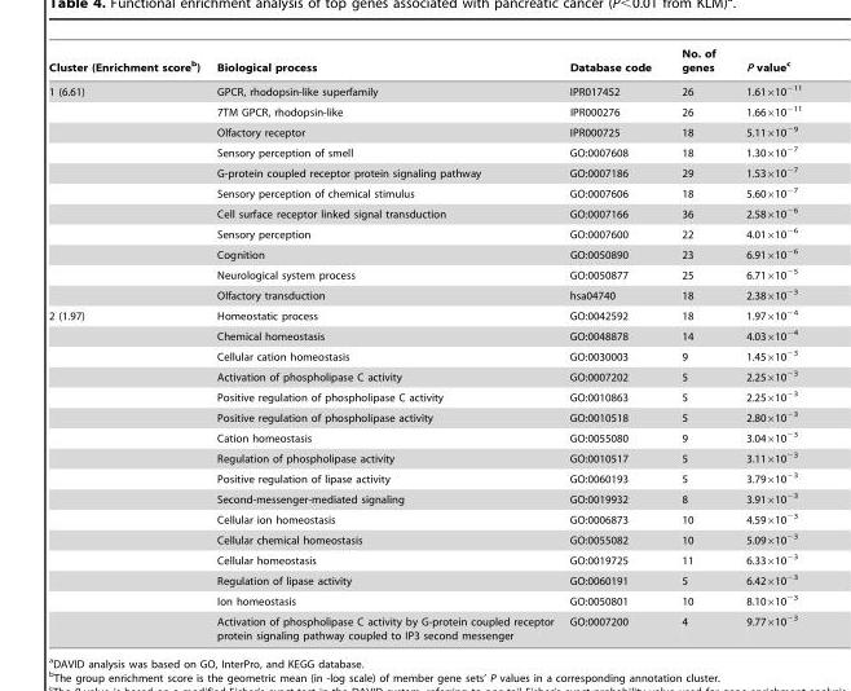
<table><thead><tr><td>Cluster (Enrichment score<sup>b</sup>)</td><td>Biological process</td><td>Database code</td><td>No. of genes</td><td>P value<sup>c</sup></td></tr></thead><tbody><tr><td rowspan="11">1 (6.61)</td><td>GPCR, rhodopsin-like superfamily</td><td>IPR017452</td><td>26</td><td>1.61×10<sup>−11</sup></td></tr><tr><td>7TM GPCR, rhodopsin-like</td><td>IPR000276</td><td>26</td><td>1.66×10<sup>−11</sup></td></tr><tr><td>Olfactory receptor</td><td>IPR000725</td><td>18</td><td>5.11×10<sup>−9</sup></td></tr><tr><td>Sensory perception of smell</td><td>GO:0007608</td><td>18</td><td>1.30×10<sup>−7</sup></td></tr><tr><td>G-protein coupled receptor protein signaling pathway</td><td>GO:0007186</td><td>29</td><td>1.53×10<sup>−7</sup></td></tr><tr><td>Sensory perception of chemical stimulus</td><td>GO:0007606</td><td>18</td><td>5.60×10<sup>−7</sup></td></tr><tr><td>Cell surface receptor linked signal transduction</td><td>GO:0007166</td><td>36</td><td>2.58×10<sup>−6</sup></td></tr><tr><td>Sensory perception</td><td>GO:0007600</td><td>22</td><td>4.01×10<sup>−6</sup></td></tr><tr><td>Cognition</td><td>GO:0050890</td><td>23</td><td>6.91×10<sup>−6</sup></td></tr><tr><td>Neurological system process</td><td>GO:0050877</td><td>25</td><td>6.71×10<sup>−5</sup></td></tr><tr><td>Olfactory transduction</td><td>hsa04740</td><td>18</td><td>2.38×10<sup>−3</sup></td></tr><tr><td rowspan="16">2 (1.97)</td><td>Homeostatic process</td><td>GO:0042592</td><td>18</td><td>1.97×10<sup>−4</sup></td></tr><tr><td>Chemical homeostasis</td><td>GO:0048878</td><td>14</td><td>4.03×10<sup>−4</sup></td></tr><tr><td>Cellular cation homeostasis</td><td>GO:0030003</td><td>9</td><td>1.45×10<sup>−3</sup></td></tr><tr><td>Activation of phospholipase C activity</td><td>GO:0007202</td><td>5</td><td>2.25×10<sup>−3</sup></td></tr><tr><td>Positive regulation of phospholipase C activity</td><td>GO:0010863</td><td>5</td><td>2.25×10<sup>−3</sup></td></tr><tr><td>Positive regulation of phospholipase activity</td><td>GO:0010518</td><td>5</td><td>2.80×10<sup>−3</sup></td></tr><tr><td>Cation homeostasis</td><td>GO:0055080</td><td>9</td><td>3.04×10<sup>−3</sup></td></tr><tr><td>Regulation of phospholipase activity</td><td>GO:0010517</td><td>5</td><td>3.11×10<sup>−3</sup></td></tr><tr><td>Positive regulation of lipase activity</td><td>GO:0060193</td><td>5</td><td>3.79×10<sup>−3</sup></td></tr><tr><td>Second-messenger-mediated signaling</td><td>GO:0019932</td><td>8</td><td>3.91×10<sup>−3</sup></td></tr><tr><td>Cellular ion homeostasis</td><td>GO:0006873</td><td>10</td><td>4.59×10<sup>−3</sup></td></tr><tr><td>Cellular chemical homeostasis</td><td>GO:0055082</td><td>10</td><td>5.09×10<sup>−3</sup></td></tr><tr><td>Cellular homeostasis</td><td>GO:0019725</td><td>11</td><td>6.33×10<sup>−3</sup></td></tr><tr><td>Regulation of lipase activity</td><td>GO:0060191</td><td>5</td><td>6.42×10<sup>−3</sup></td></tr><tr><td>Ion homeostasis</td><td>GO:0050801</td><td>10</td><td>8.10×10<sup>−3</sup></td></tr><tr><td>Activation of phospholipase C activity by G-protein coupled receptor protein signaling pathway coupled to IP3 second messenger</td><td>GO:0007200</td><td>4</td><td>9.77×10<sup>−3</sup></td></tr></tbody></table>